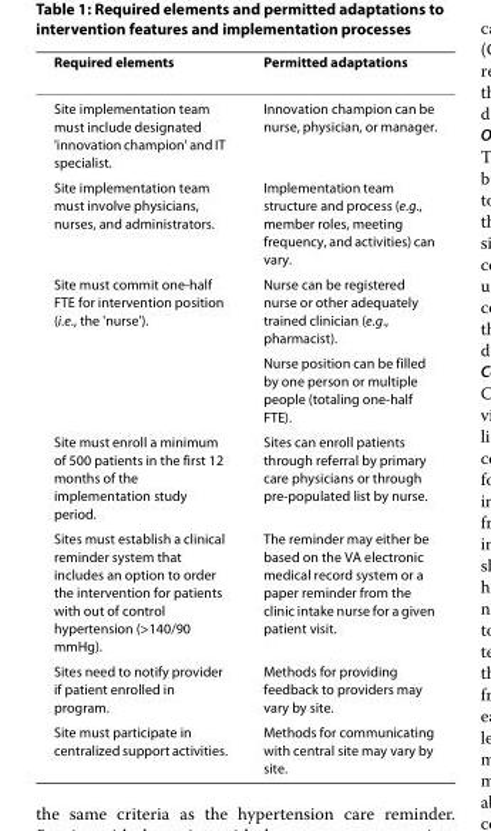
<table><thead><tr><td>Required elements</td><td>Permitted adaptations</td></tr></thead><tbody><tr><td>Site implementation team must include designated &#x27;innovation champion&#x27; and IT specialist.</td><td>Innovation champion can be nurse, physician, or manager.</td></tr><tr><td>Site implementation team must involve physicians, nurses, and administrators.</td><td>Implementation team structure and process (e.g., member roles, meeting frequency, and activities) can vary.</td></tr><tr><td rowspan="2">Site must commit one-half FTE for intervention position (i.e., the &#x27;nurse&#x27;).</td><td>Nurse can be registered nurse or other adequately trained clinician (e.g., pharmacist).</td></tr><tr><td>Nurse position can be filled by one person or multiple people (totaling one-half FTE).</td></tr><tr><td>Site must enroll a minimum of 500 patients in the first 12 months of the implementation study period.</td><td>Sites can enroll patients through referral by primary care physicians or through pre-populated list by nurse.</td></tr><tr><td>Sites must establish a clinical reminder system that includes an option to order the intervention for patients with out of control hypertension (&gt;140/90 mmHg).</td><td>The reminder may either be based on the VA electronic medical record system or a paper reminder from the clinic intake nurse for a given patient visit.</td></tr><tr><td>Sites need to notify provider if patient enrolled in program.</td><td>Methods for providing feedback to providers may vary by site.</td></tr><tr><td>Site must participate in centralized support activities.</td><td>Methods for communicating with central site may vary by site.</td></tr></tbody></table>